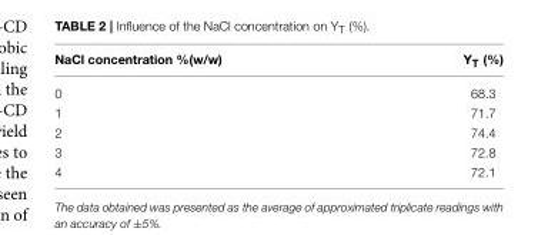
<table><thead><tr><td>NaCl concentration %(w/w)</td><td>Y<sub>T</sub> (%)</td></tr></thead><tbody><tr><td>0</td><td>68.3</td></tr><tr><td>1</td><td>71.7</td></tr><tr><td>2</td><td>74.4</td></tr><tr><td>3</td><td>72.8</td></tr><tr><td>4</td><td>72.1</td></tr></tbody></table>